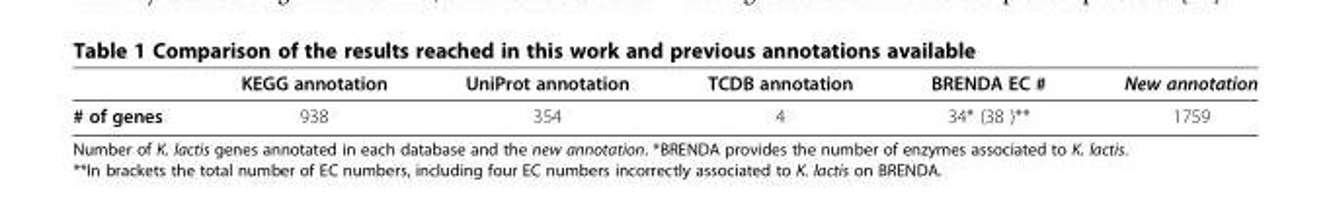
<table><thead><tr><td></td><td>KEGG annotation</td><td>UniProt annotation</td><td>TCDB annotation</td><td>BRENDA EC #</td><td>New annotation</td></tr></thead><tbody><tr><td># of genes</td><td>938</td><td>354</td><td>4</td><td>34* (38 )**</td><td>1759</td></tr></tbody></table>